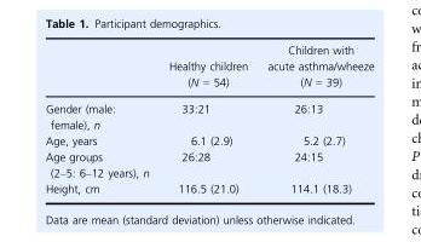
<table><thead><tr><td></td><td>Healthy children (N = 54)</td><td>Children with acute asthma/wheeze (N = 39)</td></tr></thead><tbody><tr><td>Gender (male: female), n</td><td>33:21</td><td>26:13</td></tr><tr><td>Age, years</td><td>6.1 (2.9)</td><td>5.2 (2.7)</td></tr><tr><td>Age groups (2–5: 6–12 years), n</td><td>26:28</td><td>24:15</td></tr><tr><td>Height, cm</td><td>116.5 (21.0)</td><td>114.1 (18.3)</td></tr></tbody></table>